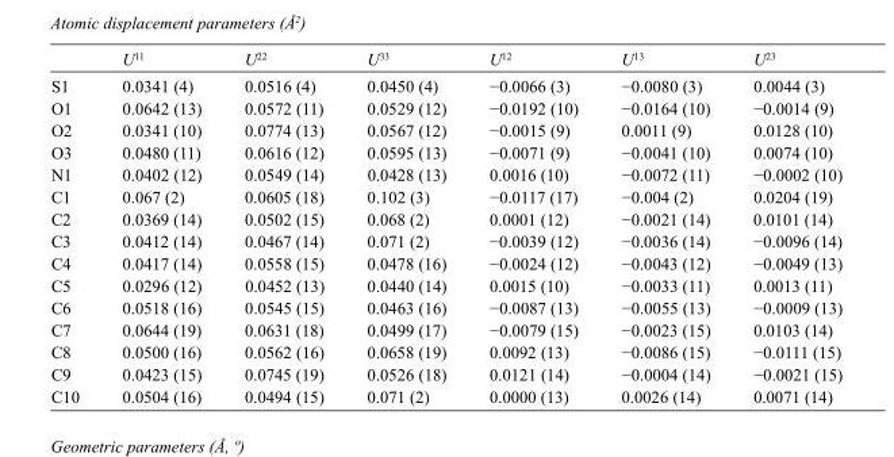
<table><thead><tr><td></td><td>U<sup>11</sup></td><td>U<sup>22</sup></td><td>U<sup>33</sup></td><td>U<sup>12</sup></td><td>U<sup>13</sup></td><td>U<sup>23</sup></td></tr></thead><tbody><tr><td>S1</td><td>0.0341 (4)</td><td>0.0516 (4)</td><td>0.0450 (4)</td><td>−0.0066 (3)</td><td>−0.0080 (3)</td><td>0.0044 (3)</td></tr><tr><td>O1</td><td>0.0642 (13)</td><td>0.0572 (11)</td><td>0.0529 (12)</td><td>−0.0192 (10)</td><td>−0.0164 (10)</td><td>−0.0014 (9)</td></tr><tr><td>O2</td><td>0.0341 (10)</td><td>0.0774 (13)</td><td>0.0567 (12)</td><td>−0.0015 (9)</td><td>0.0011 (9)</td><td>0.0128 (10)</td></tr><tr><td>O3</td><td>0.0480 (11)</td><td>0.0616 (12)</td><td>0.0595 (13)</td><td>−0.0071 (9)</td><td>−0.0041 (10)</td><td>0.0074 (10)</td></tr><tr><td>N1</td><td>0.0402 (12)</td><td>0.0549 (14)</td><td>0.0428 (13)</td><td>0.0016 (10)</td><td>−0.0072 (11)</td><td>−0.0002 (10)</td></tr><tr><td>C1</td><td>0.067 (2)</td><td>0.0605 (18)</td><td>0.102 (3)</td><td>−0.0117 (17)</td><td>−0.004 (2)</td><td>0.0204 (19)</td></tr><tr><td>C2</td><td>0.0369 (14)</td><td>0.0502 (15)</td><td>0.068 (2)</td><td>0.0001 (12)</td><td>−0.0021 (14)</td><td>0.0101 (14)</td></tr><tr><td>C3</td><td>0.0412 (14)</td><td>0.0467 (14)</td><td>0.071 (2)</td><td>−0.0039 (12)</td><td>−0.0036 (14)</td><td>−0.0096 (14)</td></tr><tr><td>C4</td><td>0.0417 (14)</td><td>0.0558 (15)</td><td>0.0478 (16)</td><td>−0.0024 (12)</td><td>−0.0043 (12)</td><td>−0.0049 (13)</td></tr><tr><td>C5</td><td>0.0296 (12)</td><td>0.0452 (13)</td><td>0.0440 (14)</td><td>0.0015 (10)</td><td>−0.0033 (11)</td><td>0.0013 (11)</td></tr><tr><td>C6</td><td>0.0518 (16)</td><td>0.0545 (15)</td><td>0.0463 (16)</td><td>−0.0087 (13)</td><td>−0.0055 (13)</td><td>−0.0009 (13)</td></tr><tr><td>C7</td><td>0.0644 (19)</td><td>0.0631 (18)</td><td>0.0499 (17)</td><td>−0.0079 (15)</td><td>−0.0023 (15)</td><td>0.0103 (14)</td></tr><tr><td>C8</td><td>0.0500 (16)</td><td>0.0562 (16)</td><td>0.0658 (19)</td><td>0.0092 (13)</td><td>−0.0086 (15)</td><td>−0.0111 (15)</td></tr><tr><td>C9</td><td>0.0423 (15)</td><td>0.0745 (19)</td><td>0.0526 (18)</td><td>0.0121 (14)</td><td>−0.0004 (14)</td><td>−0.0021 (15)</td></tr><tr><td>C10</td><td>0.0504 (16)</td><td>0.0494 (15)</td><td>0.071 (2)</td><td>0.0000 (13)</td><td>0.0026 (14)</td><td>0.0071 (14)</td></tr></tbody></table>